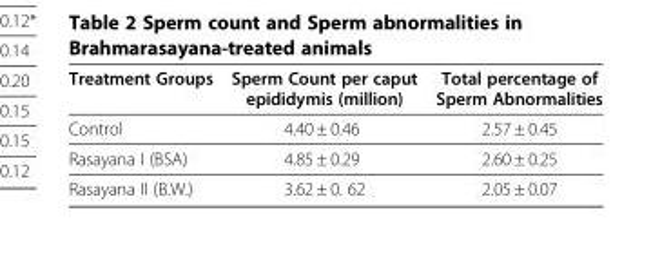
<table><thead><tr><td>Treatment Groups</td><td>Sperm Count per caput epididymis (million)</td><td>Total percentage of Sperm Abnormalities</td></tr></thead><tbody><tr><td>Control</td><td>4.40 ± 0.46</td><td>2.57 ± 0.45</td></tr><tr><td>Rasayana I (BSA)</td><td>4.85 ± 0.29</td><td>2.60 ± 0.25</td></tr><tr><td>Rasayana II (B.W.)</td><td>3.62 ± 0. 62</td><td>2.05 ± 0.07</td></tr></tbody></table>